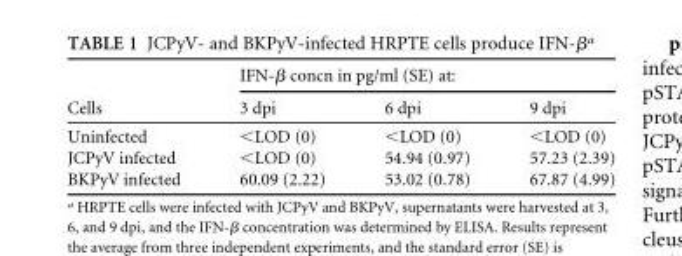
<table><thead><tr><td rowspan="2">Cells</td><td colspan="3">IFN-β concn in pg/ml (SE) at:</td></tr><tr><td>3 dpi</td><td>6 dpi</td><td>9 dpi</td></tr></thead><tbody><tr><td>Uninfected</td><td>&lt;LOD (0)</td><td>&lt;LOD (0)</td><td>&lt;LOD (0)</td></tr><tr><td>JCPyV infected</td><td>&lt;LOD (0)</td><td>54.94 (0.97)</td><td>57.23 (2.39)</td></tr><tr><td>BKPyV infected</td><td>60.09 (2.22)</td><td>53.02 (0.78)</td><td>67.87 (4.99)</td></tr></tbody></table>